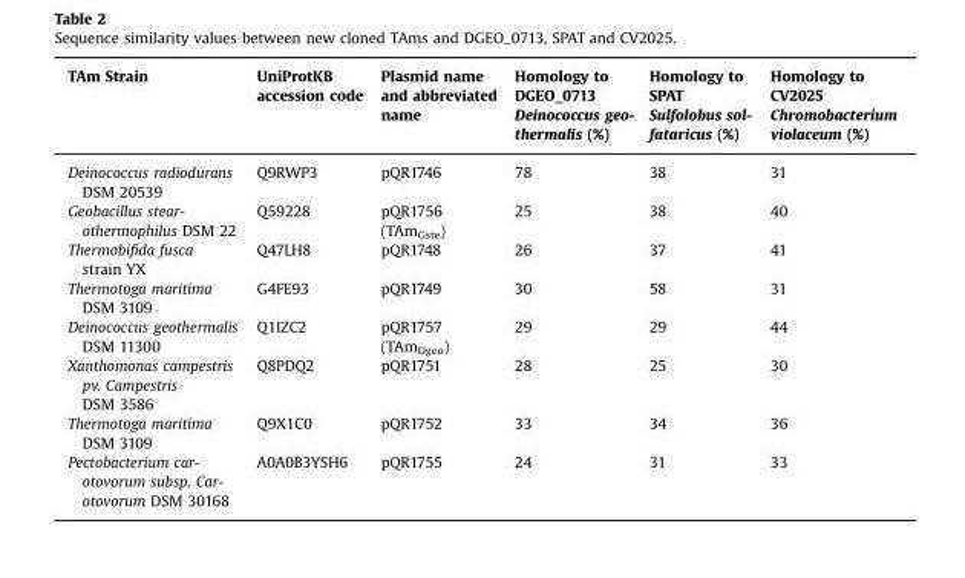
<table><thead><tr><td rowspan="2">TAm Strain</td><td rowspan="2">UniProtKB accession code</td><td rowspan="2">Plasmid name and abbreviated name</td><td rowspan="2">Homology to DGEO_0713 Deinococcus geo- thermalis (%)</td><td rowspan="2">Homology to SPAT Sulfolobus sol- fataricus (%)</td><td rowspan="2">Homology to CV2025 Chromobacterium violaceum (%)</td></tr><tr></tr></thead><tbody><tr><td>Deinococcus radiodurans DSM 20539</td><td>Q9RWP3</td><td>pQR1746</td><td>78</td><td>38</td><td>31</td></tr><tr><td>Geobacillus stear- othermophilus DSM 22</td><td>Q59228</td><td>pQR1756 (TAm<sub>Gste</sub>)</td><td>25</td><td>38</td><td>40</td></tr><tr><td>Thermobifida fusca strain YX</td><td>Q47LH8</td><td>pQR1748</td><td>26</td><td>37</td><td>41</td></tr><tr><td>Thermotoga maritima DSM 3109</td><td>G4FE93</td><td>pQR1749</td><td>30</td><td>58</td><td>31</td></tr><tr><td>Deinococcus geothermalis DSM 11300</td><td>Q1IZC2</td><td>pQR1757 (TAm<sub>Dgeo</sub>)</td><td>29</td><td>29</td><td>44</td></tr><tr><td>Xanthomonas campestris pv. Campestris DSM 3586</td><td>Q8PDQ2</td><td>pQR1751</td><td>28</td><td>25</td><td>30</td></tr><tr><td>Thermotoga maritima DSM 3109</td><td>Q9X1C0</td><td>pQR1752</td><td>33</td><td>34</td><td>36</td></tr><tr><td>Pectobacterium car- otovorum subsp. Car- otovorum DSM 30168</td><td>A0A0B3YSH6</td><td>pQR1755</td><td>24</td><td>31</td><td>33</td></tr></tbody></table>